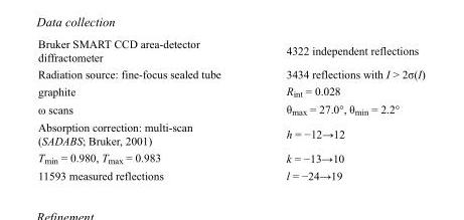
<table><tbody><tr><td>Bruker SMART CCD area-detector diffractometer</td><td>4322 independent reflections</td></tr><tr><td>Radiation source: fine-focus sealed tube</td><td>3434 reflections with I &gt; 2σ(I)</td></tr><tr><td>graphite</td><td>R<sub>int</sub> = 0.028</td></tr><tr><td>ω scans</td><td>θ<sub>max</sub> = 27.0°, θ<sub>min</sub> = 2.2°</td></tr><tr><td>Absorption correction: multi-scan (SADABS; Bruker, 2001)</td><td>h = −12→12</td></tr><tr><td>T<sub>min</sub> = 0.980, T<sub>max</sub> = 0.983</td><td>k = −13→10</td></tr><tr><td>11593 measured reflections</td><td>l = −24→19</td></tr></tbody></table>